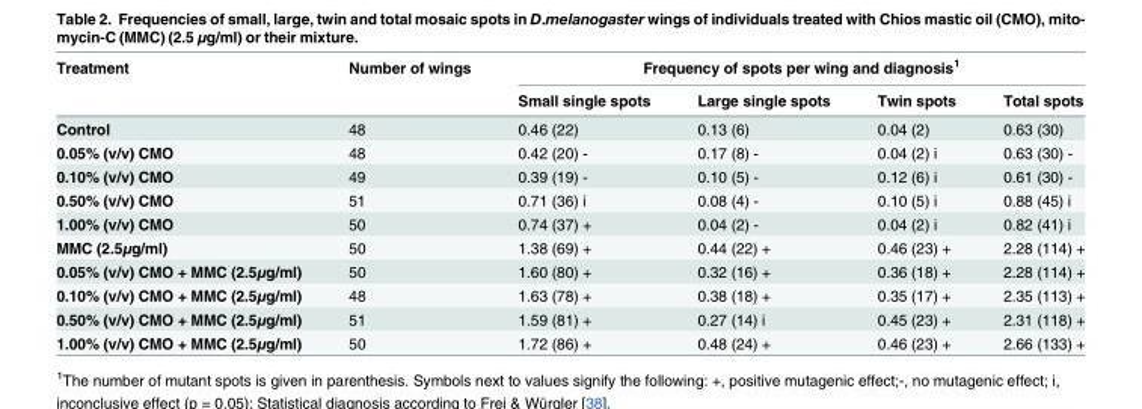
<table><thead><tr><td rowspan="2">Treatment</td><td rowspan="2">Number of wings</td><td colspan="4">Frequency of spots per wing and diagnosis<sup>1</sup></td></tr><tr><td>Small single spots</td><td>Large single spots</td><td>Twin spots</td><td>Total spots</td></tr></thead><tbody><tr><td>Control</td><td>48</td><td>0.46 (22)</td><td>0.13 (6)</td><td>0.04 (2)</td><td>0.63 (30)</td></tr><tr><td>0.05% (v/v) CMO</td><td>48</td><td>0.42 (20) -</td><td>0.17 (8) -</td><td>0.04 (2) i</td><td>0.63 (30) -</td></tr><tr><td>0.10% (v/v) CMO</td><td>49</td><td>0.39 (19) -</td><td>0.10 (5) -</td><td>0.12 (6) i</td><td>0.61 (30) -</td></tr><tr><td>0.50% (v/v) CMO</td><td>51</td><td>0.71 (36) i</td><td>0.08 (4) -</td><td>0.10 (5) i</td><td>0.88 (45) i</td></tr><tr><td>1.00% (v/v) CMO</td><td>50</td><td>0.74 (37) +</td><td>0.04 (2) -</td><td>0.04 (2) i</td><td>0.82 (41) i</td></tr><tr><td>MMC (2.5μg/ml)</td><td>50</td><td>1.38 (69) +</td><td>0.44 (22) +</td><td>0.46 (23) +</td><td>2.28 (114) +</td></tr><tr><td>0.05% (v/v) CMO + MMC (2.5μg/ml)</td><td>50</td><td>1.60 (80) +</td><td>0.32 (16) +</td><td>0.36 (18) +</td><td>2.28 (114) +</td></tr><tr><td>0.10% (v/v) CMO + MMC (2.5μg/ml)</td><td>48</td><td>1.63 (78) +</td><td>0.38 (18) +</td><td>0.35 (17) +</td><td>2.35 (113) +</td></tr><tr><td>0.50% (v/v) CMO + MMC (2.5μg/ml)</td><td>51</td><td>1.59 (81) +</td><td>0.27 (14) i</td><td>0.45 (23) +</td><td>2.31 (118) +</td></tr><tr><td>1.00% (v/v) CMO + MMC (2.5μg/ml)</td><td>50</td><td>1.72 (86) +</td><td>0.48 (24) +</td><td>0.46 (23) +</td><td>2.66 (133) +</td></tr></tbody></table>